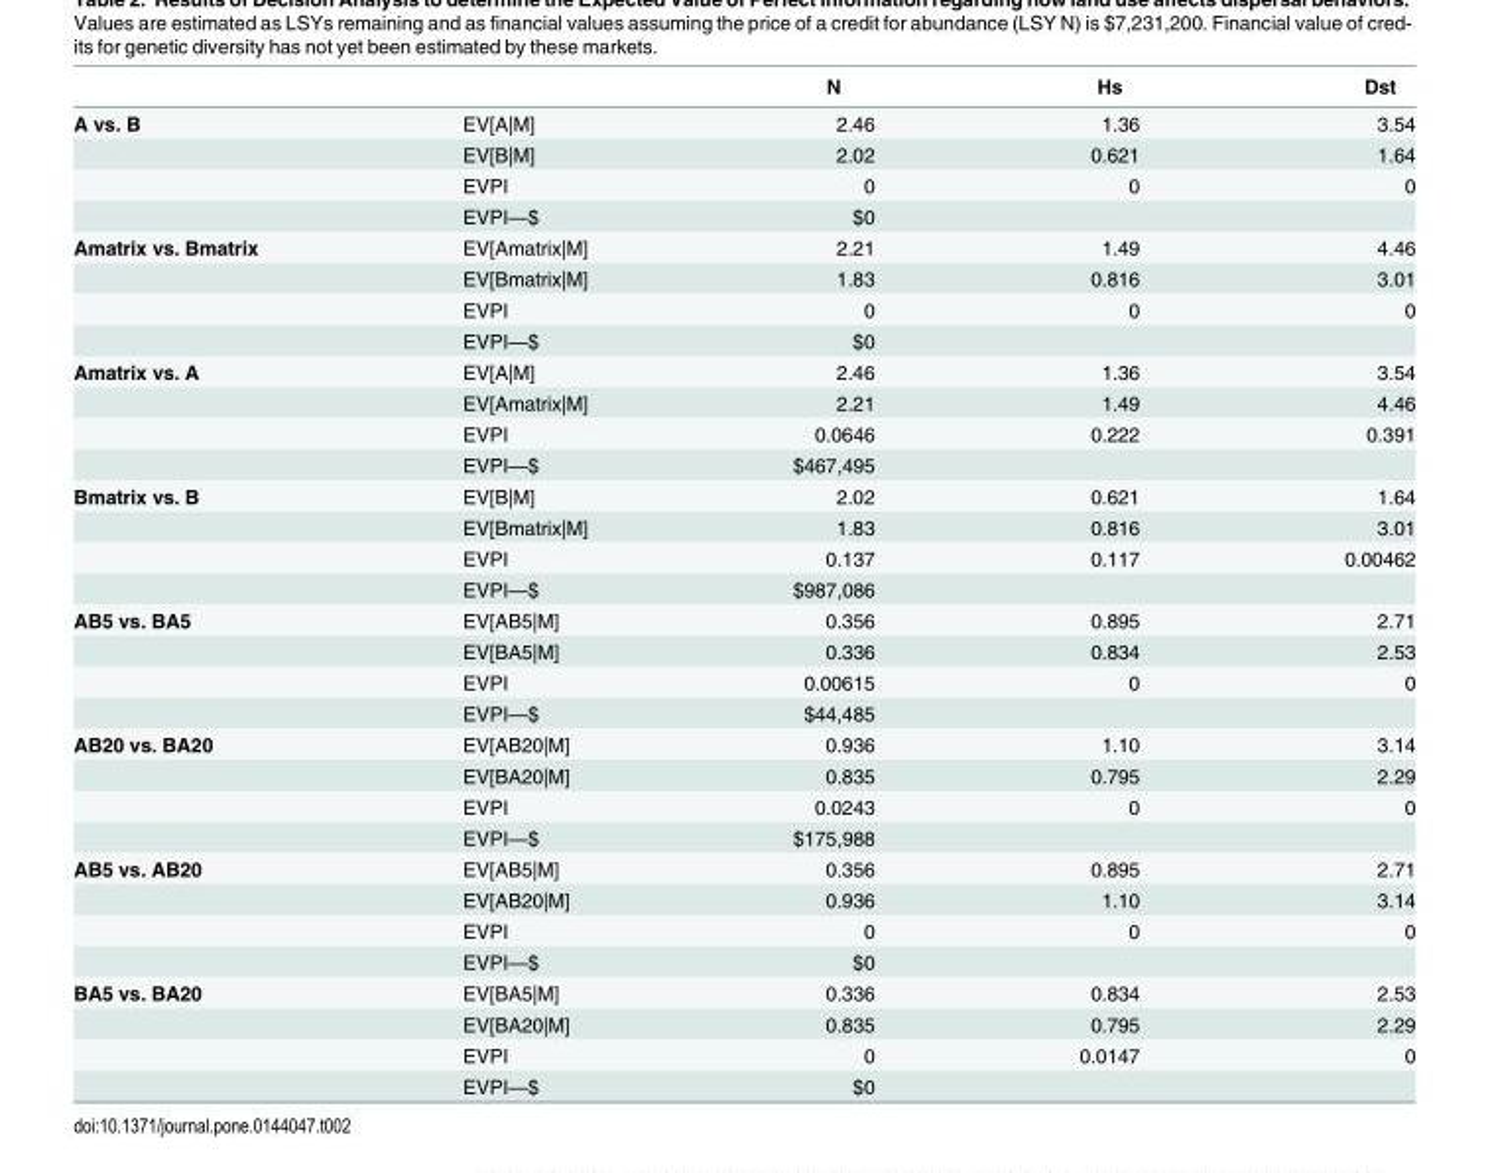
<table><thead><tr><td></td><td></td><td>N</td><td>Hs</td><td>Dst</td></tr></thead><tbody><tr><td rowspan="4">A vs. B</td><td>EV[A|M]</td><td>2.46</td><td>1.36</td><td>3.54</td></tr><tr><td>EV[B|M]</td><td>2.02</td><td>0.621</td><td>1.64</td></tr><tr><td>EVPI</td><td>0</td><td>0</td><td>0</td></tr><tr><td>EVPI—$</td><td>$0</td><td></td><td></td></tr><tr><td rowspan="4">Amatrix vs. Bmatrix</td><td>EV[Amatrix|M]</td><td>2.21</td><td>1.49</td><td>4.46</td></tr><tr><td>EV[Bmatrix|M]</td><td>1.83</td><td>0.816</td><td>3.01</td></tr><tr><td>EVPI</td><td>0</td><td>0</td><td>0</td></tr><tr><td>EVPI—$</td><td>$0</td><td></td><td></td></tr><tr><td rowspan="4">Amatrix vs. A</td><td>EV[A|M]</td><td>2.46</td><td>1.36</td><td>3.54</td></tr><tr><td>EV[Amatrix|M]</td><td>2.21</td><td>1.49</td><td>4.46</td></tr><tr><td>EVPI</td><td>0.0646</td><td>0.222</td><td>0.391</td></tr><tr><td>EVPI—$</td><td>$467,495</td><td></td><td></td></tr><tr><td rowspan="4">Bmatrix vs. B</td><td>EV[B|M]</td><td>2.02</td><td>0.621</td><td>1.64</td></tr><tr><td>EV[Bmatrix|M]</td><td>1.83</td><td>0.816</td><td>3.01</td></tr><tr><td>EVPI</td><td>0.137</td><td>0.117</td><td>0.00462</td></tr><tr><td>EVPI—$</td><td>$987,086</td><td></td><td></td></tr><tr><td rowspan="4">AB5 vs. BA5</td><td>EV[AB5|M]</td><td>0.356</td><td>0.895</td><td>2.71</td></tr><tr><td>EV[BA5|M]</td><td>0.336</td><td>0.834</td><td>2.53</td></tr><tr><td>EVPI</td><td>0.00615</td><td>0</td><td>0</td></tr><tr><td>EVPI—$</td><td>$44,485</td><td></td><td></td></tr><tr><td rowspan="4">AB20 vs. BA20</td><td>EV[AB20|M]</td><td>0.936</td><td>1.10</td><td>3.14</td></tr><tr><td>EV[BA20|M]</td><td>0.835</td><td>0.795</td><td>2.29</td></tr><tr><td>EVPI</td><td>0.0243</td><td>0</td><td>0</td></tr><tr><td>EVPI—$</td><td>$175,988</td><td></td><td></td></tr><tr><td rowspan="4">AB5 vs. AB20</td><td>EV[AB5|M]</td><td>0.356</td><td>0.895</td><td>2.71</td></tr><tr><td>EV[AB20|M]</td><td>0.936</td><td>1.10</td><td>3.14</td></tr><tr><td>EVPI</td><td>0</td><td>0</td><td>0</td></tr><tr><td>EVPI—$</td><td>$0</td><td></td><td></td></tr><tr><td rowspan="4">BA5 vs. BA20</td><td>EV[BA5|M]</td><td>0.336</td><td>0.834</td><td>2.53</td></tr><tr><td>EV[BA20|M]</td><td>0.835</td><td>0.795</td><td>2.29</td></tr><tr><td>EVPI</td><td>0</td><td>0.0147</td><td>0</td></tr><tr><td>EVPI—$</td><td>$0</td><td></td><td></td></tr></tbody></table>